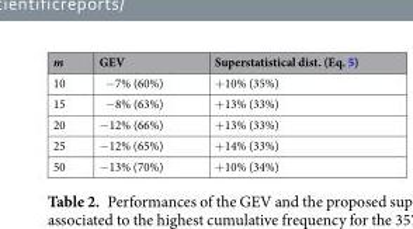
<table><thead><tr><td>m</td><td>GEV</td><td>Superstatistical dist. (Eq. 5)</td></tr></thead><tbody><tr><td>10</td><td>−7% (60%)</td><td>+10% (35%)</td></tr><tr><td>15</td><td>−8% (63%)</td><td>+13% (33%)</td></tr><tr><td>20</td><td>−12% (66%)</td><td>+13% (33%)</td></tr><tr><td>25</td><td>−12% (65%)</td><td>+14% (33%)</td></tr><tr><td>50</td><td>−13% (70%)</td><td>+10% (34%)</td></tr></tbody></table>